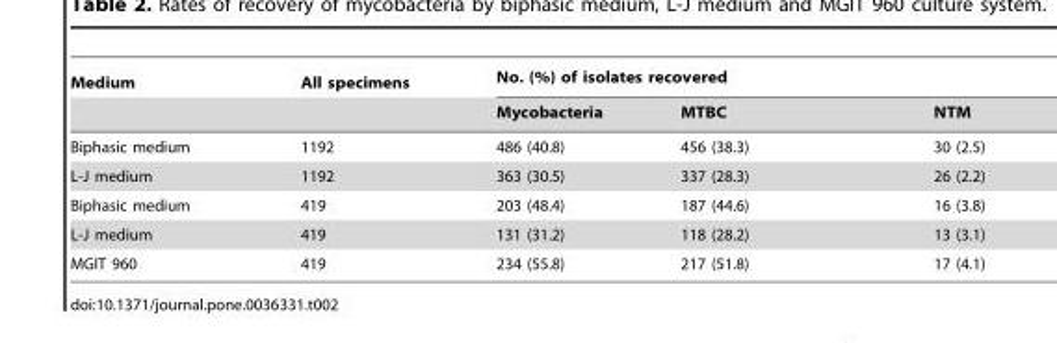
<table><thead><tr><td rowspan="2">Medium</td><td rowspan="2">All specimens</td><td colspan="3">No. (%) of isolates recovered</td></tr><tr><td>Mycobacteria</td><td>MTBC</td><td>NTM</td></tr></thead><tbody><tr><td>Biphasic medium</td><td>1192</td><td>486 (40.8)</td><td>456 (38.3)</td><td>30 (2.5)</td></tr><tr><td>L-J medium</td><td>1192</td><td>363 (30.5)</td><td>337 (28.3)</td><td>26 (2.2)</td></tr><tr><td>Biphasic medium</td><td>419</td><td>203 (48.4)</td><td>187 (44.6)</td><td>16 (3.8)</td></tr><tr><td>L-J medium</td><td>419</td><td>131 (31.2)</td><td>118 (28.2)</td><td>13 (3.1)</td></tr><tr><td>MGIT 960</td><td>419</td><td>234 (55.8)</td><td>217 (51.8)</td><td>17 (4.1)</td></tr></tbody></table>